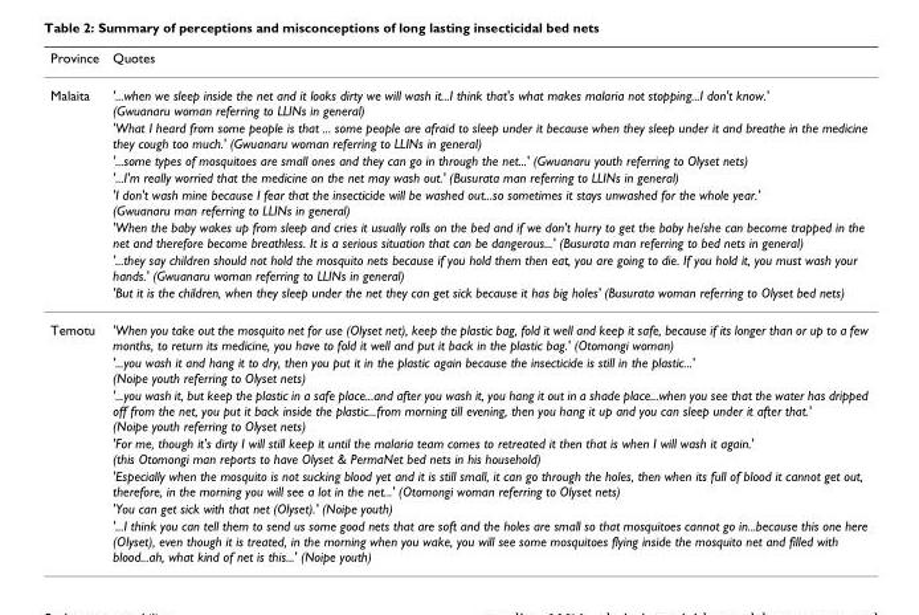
<table><thead><tr><td>Province</td><td>Quotes</td></tr></thead><tbody><tr><td rowspan="8">Malaita</td><td>&#x27;...when we sleep inside the net and it looks dirty we will wash it...I think that&#x27;s what makes malaria not stopping...I don&#x27;t know.&#x27; (Gwuanaru woman referring to LLINs in general)</td></tr><tr><td>&#x27;What I heard from some people is that ... some people are afraid to sleep under it because when they sleep under it and breathe in the medicine they cough too much.&#x27; (Gwuanaru woman referring to LLINs in general)</td></tr><tr><td>&#x27;...some types of mosquitoes are small ones and they can go in through the net...&#x27; (Gwuanaru youth referring to Olyset nets)</td></tr><tr><td>&#x27;...I&#x27;m really worried that the medicine on the net may wash out.&#x27; (Busurata man referring to LLINs in general)</td></tr><tr><td>&#x27;I don&#x27;t wash mine because I fear that the insecticide will be washed out...so sometimes it stays unwashed for the whole year.&#x27; (Gwuanaru man referring to LLINs in general)</td></tr><tr><td>&#x27;When the baby wakes up from sleep and cries it usually rolls on the bed and if we don&#x27;t hurry to get the baby he/she can become trapped in the net and therefore become breathless. It is a serious situation that can be dangerous...&#x27; (Busurata man referring to bed nets in general)</td></tr><tr><td>&#x27;...they say children should not hold the mosquito nets because if you hold them then eat, you are going to die. If you hold it, you must wash your hands.&#x27; (Gwuanaru woman referring to LLINs in general)</td></tr><tr><td>&#x27;But it is the children, when they sleep under the net they can get sick because it has big holes&#x27; (Busurata woman referring to Olyset bed nets)</td></tr><tr><td rowspan="7">Temotu</td><td>&#x27;When you take out the mosquito net for use (Olyset net), keep the plastic bag, fold it well and keep it safe, because if its longer than or up to a few months, to return its medicine, you have to fold it well and put it back in the plastic bag.&#x27; (Otomongi woman)</td></tr><tr><td>&#x27;...you wash it and hang it to dry, then you put it in the plastic again because the insecticide is still in the plastic...&#x27; (Noipe youth referring to Olyset nets)</td></tr><tr><td>&#x27;...you wash it, but keep the plastic in a safe place...and after you wash it, you hang it out in a shade place...when you see that the water has dripped off from the net, you put it back inside the plastic...from morning till evening, then you hang it up and you can sleep under it after that.&#x27; (Noipe youth referring to Olyset nets)</td></tr><tr><td>&#x27;For me, though it&#x27;s dirty I will still keep it until the malaria team comes to retreated it then that is when I will wash it again.&#x27; (this Otomongi man reports to have Olyset &amp; PermaNet bed nets in his household)</td></tr><tr><td>&#x27;Especially when the mosquito is not sucking blood yet and it is still small, it can go through the holes, then when its full of blood it cannot get out, therefore, in the morning you will see a lot in the net...&#x27; (Otomongi woman referring to Olyset nets)</td></tr><tr><td>&#x27;You can get sick with that net (Olyset).&#x27; (Noipe youth)</td></tr><tr><td>&#x27;...I think you can tell them to send us some good nets that are soft and the holes are small so that mosquitoes cannot go in...because this one here (Olyset), even though it is treated, in the morning when you wake, you will see some mosquitoes flying inside the mosquito net and filled with blood...ah, what kind of net is this...&#x27; (Noipe youth)</td></tr></tbody></table>